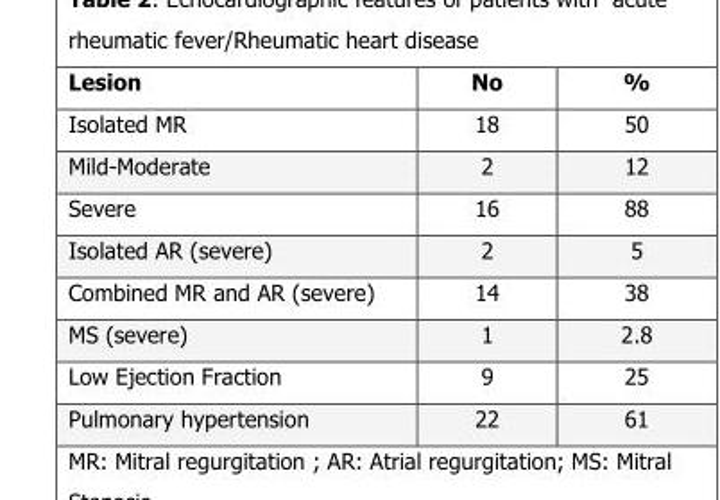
<table><thead><tr><td>Lesion</td><td>No</td><td>%</td></tr></thead><tbody><tr><td>Isolated MR</td><td>18</td><td>50</td></tr><tr><td>Mild-Moderate</td><td>2</td><td>12</td></tr><tr><td>Severe</td><td>16</td><td>88</td></tr><tr><td>Isolated AR (severe)</td><td>2</td><td>5</td></tr><tr><td>Combined MR and AR (severe)</td><td>14</td><td>38</td></tr><tr><td>MS (severe)</td><td>1</td><td>2.8</td></tr><tr><td>Low Ejection Fraction</td><td>9</td><td>25</td></tr><tr><td>Pulmonary hypertension</td><td>22</td><td>61</td></tr></tbody></table>